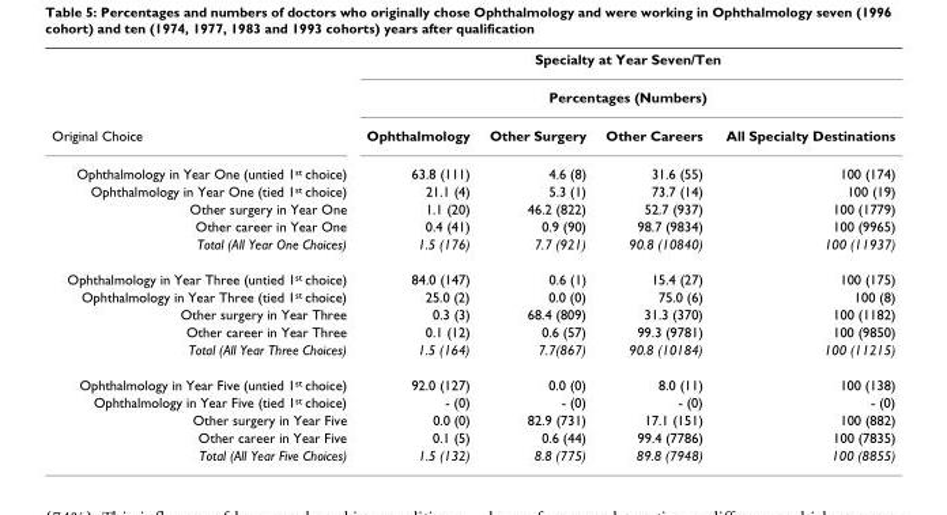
<table><thead><tr><td rowspan="3">Original Choice</td><td rowspan="2" colspan="4">Specialty at Year Seven/Ten Percentages (Numbers)</td></tr><tr></tr><tr><td>Ophthalmology</td><td>Other Surgery</td><td>Other Careers</td><td>All Specialty Destinations</td></tr></thead><tbody><tr><td>Ophthalmology in Year One (untied 1<sup>st</sup> choice)</td><td>63.8 (111)</td><td>4.6 (8)</td><td>31.6 (55)</td><td>100 (174)</td></tr><tr><td>Ophthalmology in Year One (tied 1<sup>st</sup> choice)</td><td>21.1 (4)</td><td>5.3 (1)</td><td>73.7 (14)</td><td>100 (19)</td></tr><tr><td>Other surgery in Year One</td><td>1.1 (20)</td><td>46.2 (822)</td><td>52.7 (937)</td><td>100 (1779)</td></tr><tr><td>Other career in Year One</td><td>0.4 (41)</td><td>0.9 (90)</td><td>98.7 (9834)</td><td>100 (9965)</td></tr><tr><td>Total (All Year One Choices)</td><td>1.5 (176)</td><td>7.7 (921)</td><td>90.8 (10840)</td><td>100 (11937)</td></tr><tr><td>Ophthalmology in Year Three (untied 1<sup>st</sup> choice)</td><td>84.0 (147)</td><td>0.6 (1)</td><td>15.4 (27)</td><td>100 (175)</td></tr><tr><td>Ophthalmology in Year Three (tied 1<sup>st</sup> choice)</td><td>25.0 (2)</td><td>0.0 (0)</td><td>75.0 (6)</td><td>100 (8)</td></tr><tr><td>Other surgery in Year Three</td><td>0.3 (3)</td><td>68.4 (809)</td><td>31.3 (370)</td><td>100 (1182)</td></tr><tr><td>Other career in Year Three</td><td>0.1 (12)</td><td>0.6 (57)</td><td>99.3 (9781)</td><td>100 (9850)</td></tr><tr><td>Total (All Year Three Choices)</td><td>1.5 (164)</td><td>7.7(867)</td><td>90.8 (10184)</td><td>100 (11215)</td></tr><tr><td>Ophthalmology in Year Five (untied 1<sup>st</sup> choice)</td><td>92.0 (127)</td><td>0.0 (0)</td><td>8.0 (11)</td><td>100 (138)</td></tr><tr><td>Ophthalmology in Year Five (tied 1<sup>st</sup> choice)</td><td>- (0)</td><td>- (0)</td><td>- (0)</td><td>- (0)</td></tr><tr><td>Other surgery in Year Five</td><td>0.0 (0)</td><td>82.9 (731)</td><td>17.1 (151)</td><td>100 (882)</td></tr><tr><td>Other career in Year Five</td><td>0.1 (5)</td><td>0.6 (44)</td><td>99.4 (7786)</td><td>100 (7835)</td></tr><tr><td>Total (All Year Five Choices)</td><td>1.5 (132)</td><td>8.8 (775)</td><td>89.8 (7948)</td><td>100 (8855)</td></tr></tbody></table>